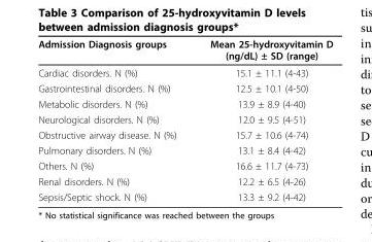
<table><thead><tr><td>Admission Diagnosis groups</td><td>Mean 25-hydroxyvitamin D (ng/dL) ± SD (range)</td></tr></thead><tbody><tr><td>Cardiac disorders. N (%)</td><td>15.1 ± 11.1 (4-43)</td></tr><tr><td>Gastrointestinal disorders. N (%)</td><td>12.5 ± 10.1 (4-50)</td></tr><tr><td>Metabolic disorders. N (%)</td><td>13.9 ± 8.9 (4-40)</td></tr><tr><td>Neurological disorders. N (%)</td><td>12.0 ± 9.5 (4-51)</td></tr><tr><td>Obstructive airway disease. N (%)</td><td>15.7 ± 10.6 (4-74)</td></tr><tr><td>Pulmonary disorders. N (%)</td><td>13.1 ± 8.4 (4-42)</td></tr><tr><td>Others. N (%)</td><td>16.6 ± 11.7 (4-73)</td></tr><tr><td>Renal disorders. N (%)</td><td>12.2 ± 6.5 (4-26)</td></tr><tr><td>Sepsis/Septic shock. N (%)</td><td>13.3 ± 9.2 (4-42)</td></tr></tbody></table>